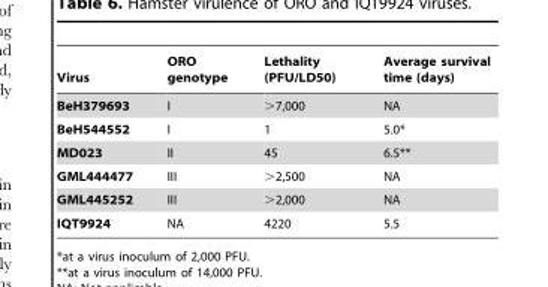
<table><thead><tr><td>Virus</td><td>ORO genotype</td><td>Lethality (PFU/LD50)</td><td>Average survival time (days)</td></tr></thead><tbody><tr><td>BeH379693</td><td>I</td><td>&gt;7,000</td><td>NA</td></tr><tr><td>BeH544552</td><td>I</td><td>1</td><td>5.0*</td></tr><tr><td>MD023</td><td>II</td><td>45</td><td>6.5**</td></tr><tr><td>GML444477</td><td>III</td><td>&gt;2,500</td><td>NA</td></tr><tr><td>GML445252</td><td>III</td><td>&gt;2,000</td><td>NA</td></tr><tr><td>IQT9924</td><td>NA</td><td>4220</td><td>5.5</td></tr></tbody></table>